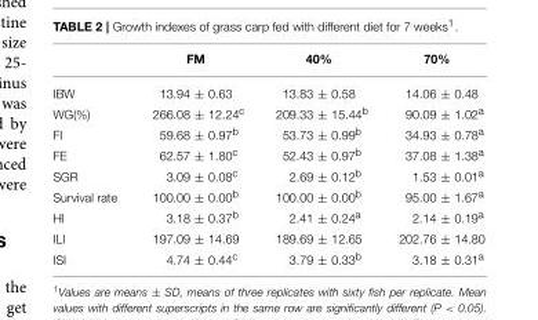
<table><thead><tr><td></td><td>FM</td><td>40%</td><td>70%</td></tr></thead><tbody><tr><td>IBW</td><td>13.94 ± 0.63</td><td>13.83 ± 0.58</td><td>14.06 ± 0.48</td></tr><tr><td>WG(%)</td><td>266.08 ± 12.24<sup>c</sup></td><td>209.33 ± 15.44<sup>b</sup></td><td>90.09 ± 1.02<sup>a</sup></td></tr><tr><td>FI</td><td>59.68 ± 0.97<sup>b</sup></td><td>53.73 ± 0.99<sup>b</sup></td><td>34.93 ± 0.78<sup>a</sup></td></tr><tr><td>FE</td><td>62.57 ± 1.80<sup>c</sup></td><td>52.43 ± 0.97<sup>b</sup></td><td>37.08 ± 1.38<sup>a</sup></td></tr><tr><td>SGR</td><td>3.09 ± 0.08<sup>c</sup></td><td>2.69 ± 0.12<sup>b</sup></td><td>1.53 ± 0.01<sup>a</sup></td></tr><tr><td>Survival rate</td><td>100.00 ± 0.00<sup>b</sup></td><td>100.00 ± 0.00<sup>b</sup></td><td>95.00 ± 1.67<sup>a</sup></td></tr><tr><td>HI</td><td>3.18 ± 0.37<sup>b</sup></td><td>2.41 ± 0.24<sup>a</sup></td><td>2.14 ± 0.19<sup>a</sup></td></tr><tr><td>ILI</td><td>197.09 ± 14.69</td><td>189.69 ± 12.65</td><td>202.76 ± 14.80</td></tr><tr><td>ISI</td><td>4.74 ± 0.44<sup>c</sup></td><td>3.79 ± 0.33<sup>b</sup></td><td>3.18 ± 0.31<sup>a</sup></td></tr></tbody></table>